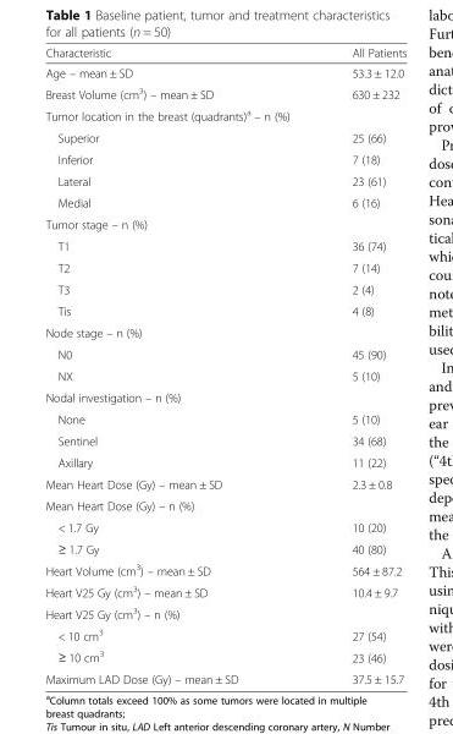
<table><thead><tr><td>Characteristic</td><td>All Patients</td></tr></thead><tbody><tr><td>Age – mean ± SD</td><td>53.3 ± 12.0</td></tr><tr><td>Breast Volume (cm<sup>3</sup>) – mean ± SD</td><td>630 ± 232</td></tr><tr><td colspan="2">Tumor location in the breast (quadrants)<sup>a</sup> – n (%)</td></tr><tr><td>Superior</td><td>25 (66)</td></tr><tr><td>Inferior</td><td>7 (18)</td></tr><tr><td>Lateral</td><td>23 (61)</td></tr><tr><td>Medial</td><td>6 (16)</td></tr><tr><td colspan="2">Tumor stage – n (%)</td></tr><tr><td>T1</td><td>36 (74)</td></tr><tr><td>T2</td><td>7 (14)</td></tr><tr><td>T3</td><td>2 (4)</td></tr><tr><td>Tis</td><td>4 (8)</td></tr><tr><td colspan="2">Node stage – n (%)</td></tr><tr><td>N0</td><td>45 (90)</td></tr><tr><td>NX</td><td>5 (10)</td></tr><tr><td colspan="2">Nodal investigation – n (%)</td></tr><tr><td>None</td><td>5 (10)</td></tr><tr><td>Sentinel</td><td>34 (68)</td></tr><tr><td>Axillary</td><td>11 (22)</td></tr><tr><td>Mean Heart Dose (Gy) – mean ± SD</td><td>2.3 ± 0.8</td></tr><tr><td colspan="2">Mean Heart Dose (Gy) – n (%)</td></tr><tr><td>&lt; 1.7 Gy</td><td>10 (20)</td></tr><tr><td>≥ 1.7 Gy</td><td>40 (80)</td></tr><tr><td>Heart Volume (cm<sup>3</sup>) – mean ± SD</td><td>564 ± 87.2</td></tr><tr><td>Heart V25 Gy (cm<sup>3</sup>) – mean ± SD</td><td>10.4 ± 9.7</td></tr><tr><td colspan="2">Heart V25 Gy (cm<sup>3</sup>) – n (%)</td></tr><tr><td>&lt; 10 cm<sup>3</sup></td><td>27 (54)</td></tr><tr><td>≥ 10 cm<sup>3</sup></td><td>23 (46)</td></tr><tr><td>Maximum LAD Dose (Gy) – mean ± SD</td><td>37.5 ± 15.7</td></tr></tbody></table>